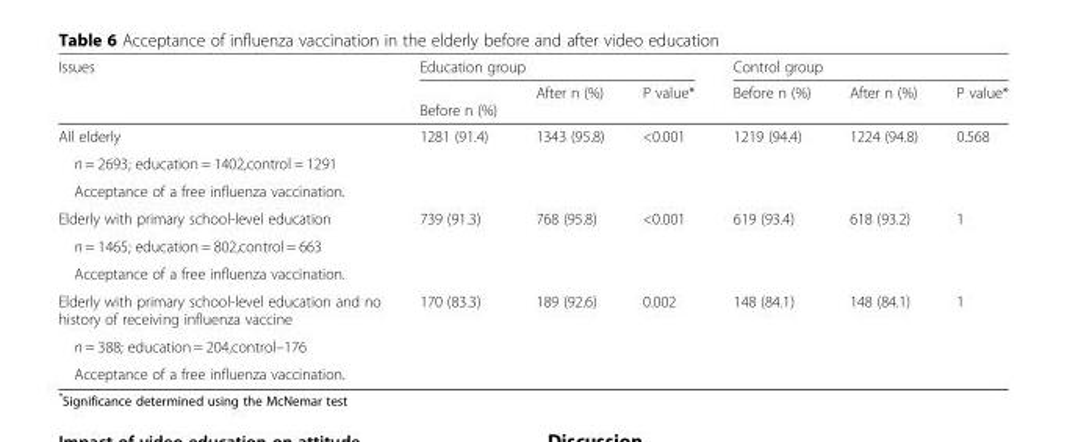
<table><thead><tr><td rowspan="2">Issues</td><td colspan="3">Education group</td><td colspan="3">Control group</td></tr><tr><td>Before n (%)</td><td>After n (%)</td><td>P value*</td><td>Before n (%)</td><td>After n (%)</td><td>P value*</td></tr></thead><tbody><tr><td>All elderly</td><td rowspan="3">1281 (91.4)</td><td rowspan="3">1343 (95.8)</td><td rowspan="3">&lt;0.001</td><td rowspan="3">1219 (94.4)</td><td rowspan="3">1224 (94.8)</td><td rowspan="3">0.568</td></tr><tr><td>n = 2693; education = 1402,control = 1291</td></tr><tr><td>Acceptance of a free influenza vaccination.</td></tr><tr><td>Elderly with primary school-level education</td><td rowspan="3">739 (91.3)</td><td rowspan="3">768 (95.8)</td><td rowspan="3">&lt;0.001</td><td rowspan="3">619 (93.4)</td><td rowspan="3">618 (93.2)</td><td rowspan="3">1</td></tr><tr><td>n = 1465; education = 802,control = 663</td></tr><tr><td>Acceptance of a free influenza vaccination.</td></tr><tr><td>Elderly with primary school-level education and no history of receiving influenza vaccine</td><td rowspan="3">170 (83.3)</td><td rowspan="3">189 (92.6)</td><td rowspan="3">0.002</td><td rowspan="3">148 (84.1)</td><td rowspan="3">148 (84.1)</td><td rowspan="3">1</td></tr><tr><td>n = 388; education = 204,control–176</td></tr><tr><td>Acceptance of a free influenza vaccination.</td></tr></tbody></table>